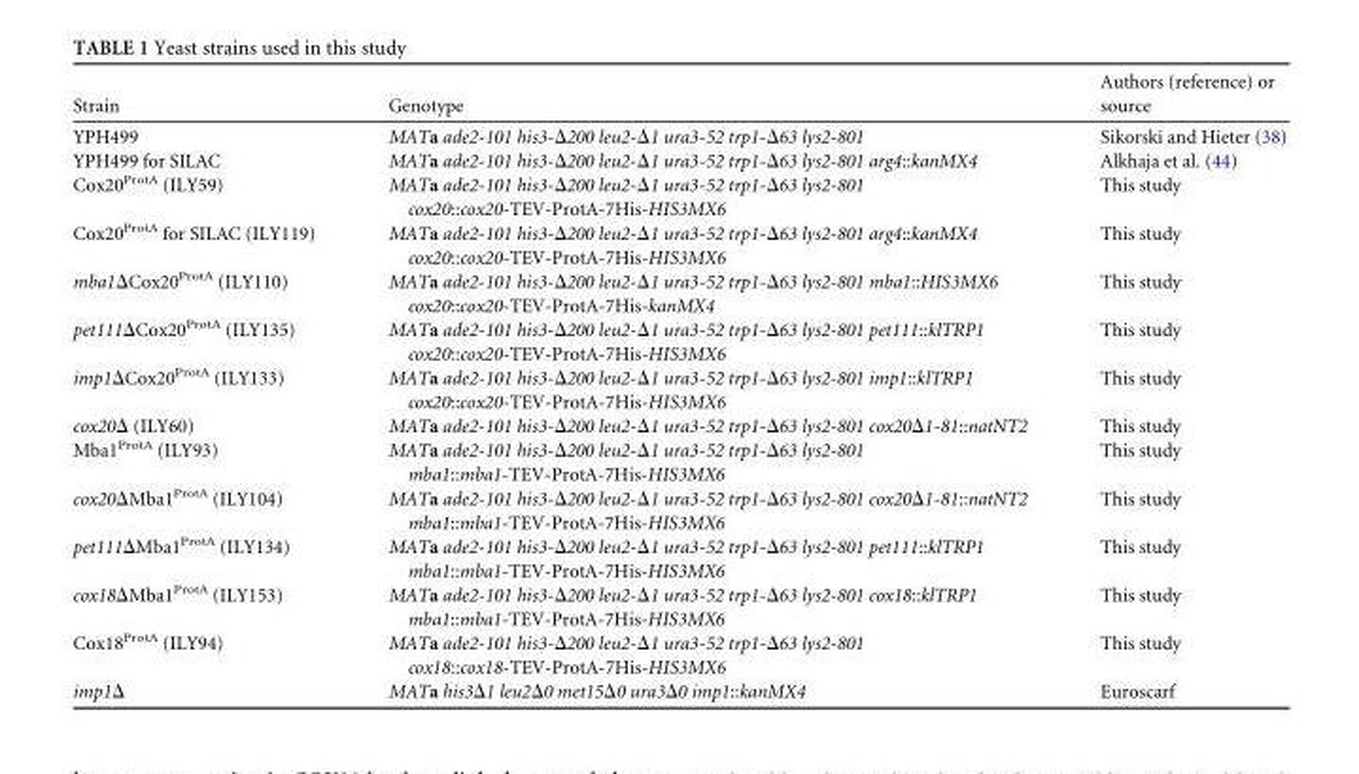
<table><thead><tr><td>Strain</td><td>Genotype</td><td>Authors (reference) or source</td></tr></thead><tbody><tr><td>YPH499</td><td>MATa ade2-101 his3-Δ200 leu2-Δ1 ura3-52 trp1-Δ63 lys2-801</td><td>Sikorski and Hieter (38)</td></tr><tr><td>YPH499 for SILAC</td><td>MATa ade2-101 his3-Δ200 leu2-Δ1 ura3-52 trp1-Δ63 lys2-801 arg4::kanMX4</td><td>Alkhaja et al. (44)</td></tr><tr><td>Cox20<sup>ProtA</sup> (ILY59)</td><td>MATa ade2-101 his3-Δ200 leu2-Δ1 ura3-52 trp1-Δ63 lys2-801 cox20::cox20-TEV-ProtA-7His-HIS3MX6</td><td>This study</td></tr><tr><td>Cox20<sup>ProtA</sup> for SILAC (ILY119)</td><td>MATa ade2-101 his3-Δ200 leu2-Δ1 ura3-52 trp1-Δ63 lys2-801 arg4::kanMX4 cox20::cox20-TEV-ProtA-7His-HIS3MX6</td><td>This study</td></tr><tr><td>mba1ΔCox20<sup>ProtA</sup> (ILY110)</td><td>MATa ade2-101 his3-Δ200 leu2-Δ1 ura3-52 trp1-Δ63 lys2-801 mba1::HIS3MX6 cox20::cox20-TEV-ProtA-7His-kanMX4</td><td>This study</td></tr><tr><td>pet111ΔCox20<sup>ProtA</sup> (ILY135)</td><td>MATa ade2-101 his3-Δ200 leu2-Δ1 ura3-52 trp1-Δ63 lys2-801 pet111::klTRP1 cox20::cox20-TEV-ProtA-7His-HIS3MX6</td><td>This study</td></tr><tr><td>imp1ΔCox20<sup>ProtA</sup> (ILY133)</td><td>MATa ade2-101 his3-Δ200 leu2-Δ1 ura3-52 trp1-Δ63 lys2-801 imp1::klTRP1 cox20::cox20-TEV-ProtA-7His-HIS3MX6</td><td>This study</td></tr><tr><td>cox20Δ (ILY60)</td><td>MATa ade2-101 his3-Δ200 leu2-Δ1 ura3-52 trp1-Δ63 lys2-801 cox20Δ1-81::natNT2</td><td>This study</td></tr><tr><td>Mba1<sup>ProtA</sup> (ILY93)</td><td>MATa ade2-101 his3-Δ200 leu2-Δ1 ura3-52 trp1-Δ63 lys2-801 mba1::mba1-TEV-ProtA-7His-HIS3MX6</td><td>This study</td></tr><tr><td>cox20ΔMba1<sup>ProtA</sup> (ILY104)</td><td>MATa ade2-101 his3-Δ200 leu2-Δ1 ura3-52 trp1-Δ63 lys2-801 cox20Δ1-81::natNT2 mba1::mba1-TEV-ProtA-7His-HIS3MX6</td><td>This study</td></tr><tr><td>pet111ΔMba1<sup>ProtA</sup> (ILY134)</td><td>MATa ade2-101 his3-Δ200 leu2-Δ1 ura3-52 trp1-Δ63 lys2-801 pet111::klTRP1 mba1::mba1-TEV-ProtA-7His-HIS3MX6</td><td>This study</td></tr><tr><td>cox18ΔMba1<sup>ProtA</sup> (ILY153)</td><td>MATa ade2-101 his3-Δ200 leu2-Δ1 ura3-52 trp1-Δ63 lys2-801 cox18::klTRP1 mba1::mba1-TEV-ProtA-7His-HIS3MX6</td><td>This study</td></tr><tr><td>Cox18<sup>ProtA</sup> (ILY94)</td><td>MATa ade2-101 his3-Δ200 leu2-Δ1 ura3-52 trp1-Δ63 lys2-801 cox18::cox18-TEV-ProtA-7His-HIS3MX6</td><td>This study</td></tr><tr><td>imp1Δ</td><td>MATa his3Δ1 leu2Δ0 met15Δ0 ura3Δ0 imp1::kanMX4</td><td>Euroscarf</td></tr></tbody></table>